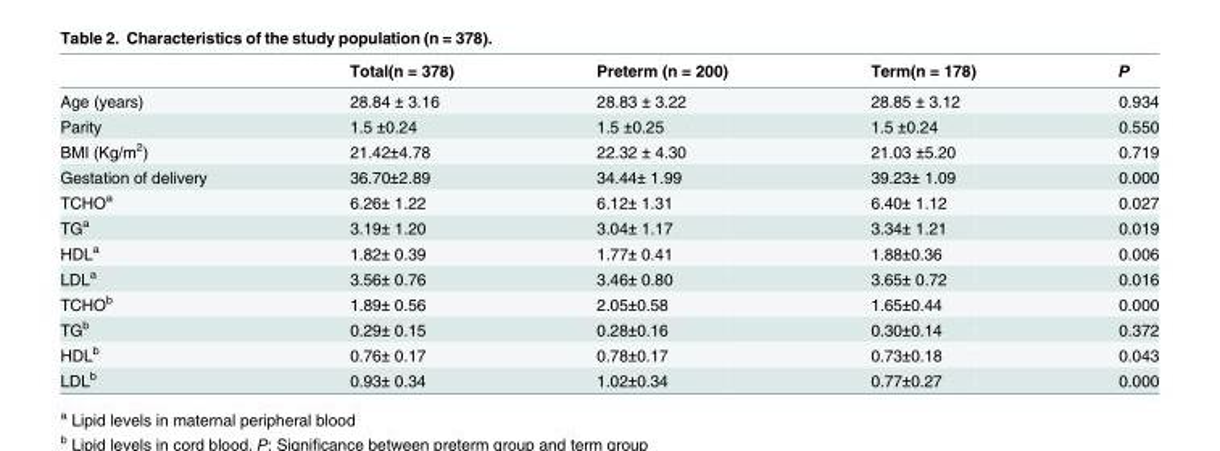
<table><thead><tr><td></td><td>Total(n = 378)</td><td>Preterm (n = 200)</td><td>Term(n = 178)</td><td>P</td></tr></thead><tbody><tr><td>Age (years)</td><td>28.84 ± 3.16</td><td>28.83 ± 3.22</td><td>28.85 ± 3.12</td><td>0.934</td></tr><tr><td>Parity</td><td>1.5 ±0.24</td><td>1.5 ±0.25</td><td>1.5 ±0.24</td><td>0.550</td></tr><tr><td>BMI (Kg/m<sup>2</sup>)</td><td>21.42±4.78</td><td>22.32 ± 4.30</td><td>21.03 ±5.20</td><td>0.719</td></tr><tr><td>Gestation of delivery</td><td>36.70±2.89</td><td>34.44± 1.99</td><td>39.23± 1.09</td><td>0.000</td></tr><tr><td>TCHO<sup>a</sup></td><td>6.26± 1.22</td><td>6.12± 1.31</td><td>6.40± 1.12</td><td>0.027</td></tr><tr><td>TG<sup>a</sup></td><td>3.19± 1.20</td><td>3.04± 1.17</td><td>3.34± 1.21</td><td>0.019</td></tr><tr><td>HDL<sup>a</sup></td><td>1.82± 0.39</td><td>1.77± 0.41</td><td>1.88±0.36</td><td>0.006</td></tr><tr><td>LDL<sup>a</sup></td><td>3.56± 0.76</td><td>3.46± 0.80</td><td>3.65± 0.72</td><td>0.016</td></tr><tr><td>TCHO<sup>b</sup></td><td>1.89± 0.56</td><td>2.05±0.58</td><td>1.65±0.44</td><td>0.000</td></tr><tr><td>TG<sup>b</sup></td><td>0.29± 0.15</td><td>0.28±0.16</td><td>0.30±0.14</td><td>0.372</td></tr><tr><td>HDL<sup>b</sup></td><td>0.76± 0.17</td><td>0.78±0.17</td><td>0.73±0.18</td><td>0.043</td></tr><tr><td>LDL<sup>b</sup></td><td>0.93± 0.34</td><td>1.02±0.34</td><td>0.77±0.27</td><td>0.000</td></tr></tbody></table>